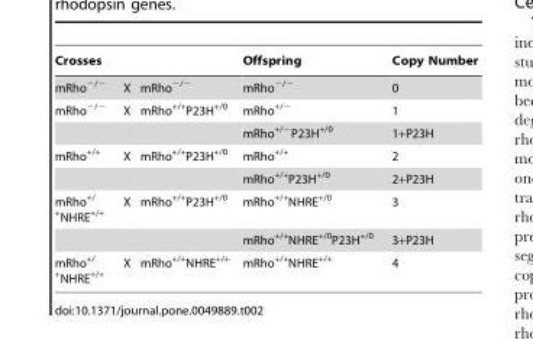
<table><thead><tr><td colspan="3">Crosses</td><td rowspan="2">Offspring mRho<sup>−/−</sup></td><td rowspan="2">Copy Number 0</td></tr><tr><td>mRho<sup>−/−</sup></td><td>X</td><td>mRho<sup>−/−</sup></td></tr></thead><tbody><tr><td rowspan="2">mRho<sup>−/−</sup></td><td>X</td><td>mRho<sup>+/+</sup>P23H<sup>+/0</sup></td><td>mRho<sup>+/−</sup></td><td>1</td></tr><tr><td></td><td></td><td>mRho<sup>+/−</sup>P23H<sup>+/0</sup></td><td>1+P23H</td></tr><tr><td rowspan="2">mRho<sup>+/+</sup></td><td>X</td><td>mRho<sup>+/+</sup>P23H<sup>+/0</sup></td><td>mRho<sup>+/+</sup></td><td>2</td></tr><tr><td></td><td></td><td>mRho<sup>+/+</sup>P23H<sup>+/0</sup></td><td>2+P23H</td></tr><tr><td rowspan="2">mRho<sup>+/ +</sup>NHRE<sup>+/+</sup></td><td>X</td><td>mRho<sup>+/+</sup>P23H<sup>+/0</sup></td><td>mRho<sup>+/+</sup>NHRE<sup>+/0</sup></td><td>3</td></tr><tr><td></td><td></td><td>mRho<sup>+/+</sup>NHRE<sup>+/0</sup>P23H<sup>+/0</sup></td><td>3+P23H</td></tr><tr><td>mRho<sup>+/ +</sup>NHRE<sup>+/+</sup></td><td>X</td><td>mRho<sup>+/+</sup>NHRE<sup>+/+</sup></td><td>mRho<sup>+/+</sup>NHRE<sup>+/+</sup></td><td>4</td></tr></tbody></table>